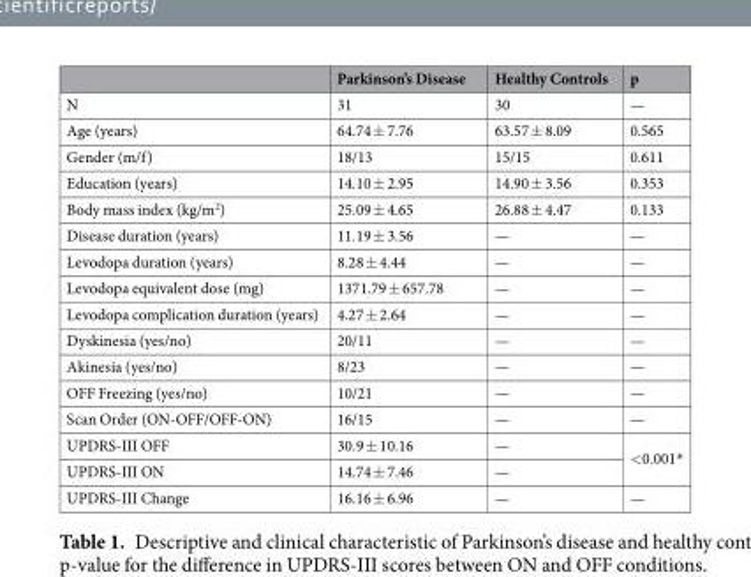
<table><thead><tr><td></td><td>Parkinson’s Disease</td><td>Healthy Controls</td><td>p</td></tr></thead><tbody><tr><td>N</td><td>31</td><td>30</td><td>—</td></tr><tr><td>Age (years)</td><td>64.74 ± 7.76</td><td>63.57 ± 8.09</td><td>0.565</td></tr><tr><td>Gender (m/f)</td><td>18/13</td><td>15/15</td><td>0.611</td></tr><tr><td>Education (years)</td><td>14.10 ± 2.95</td><td>14.90 ± 3.56</td><td>0.353</td></tr><tr><td>Body mass index (kg/m<sup>2</sup>)</td><td>25.09 ± 4.65</td><td>26.88 ± 4.47</td><td>0.133</td></tr><tr><td>Disease duration (years)</td><td>11.19 ± 3.56</td><td>—</td><td>—</td></tr><tr><td>Levodopa duration (years)</td><td>8.28 ± 4.44</td><td>—</td><td>—</td></tr><tr><td>Levodopa equivalent dose (mg)</td><td>1371.79 ± 657.78</td><td>—</td><td>—</td></tr><tr><td>Levodopa complication duration (years)</td><td>4.27 ± 2.64</td><td>—</td><td>—</td></tr><tr><td>Dyskinesia (yes/no)</td><td>20/11</td><td>—</td><td>—</td></tr><tr><td>Akinesia (yes/no)</td><td>8/23</td><td>—</td><td>—</td></tr><tr><td>OFF Freezing (yes/no)</td><td>10/21</td><td>—</td><td>—</td></tr><tr><td>Scan Order (ON-OFF/OFF-ON)</td><td>16/15</td><td>—</td><td>—</td></tr><tr><td>UPDRS-III OFF</td><td>30.9 ± 10.16</td><td>—</td><td rowspan="2">&lt;0.001*</td></tr><tr><td>UPDRS-III ON</td><td>14.74 ± 7.46</td><td>—</td></tr><tr><td>UPDRS-III Change</td><td>16.16 ± 6.96</td><td>—</td><td>—</td></tr></tbody></table>